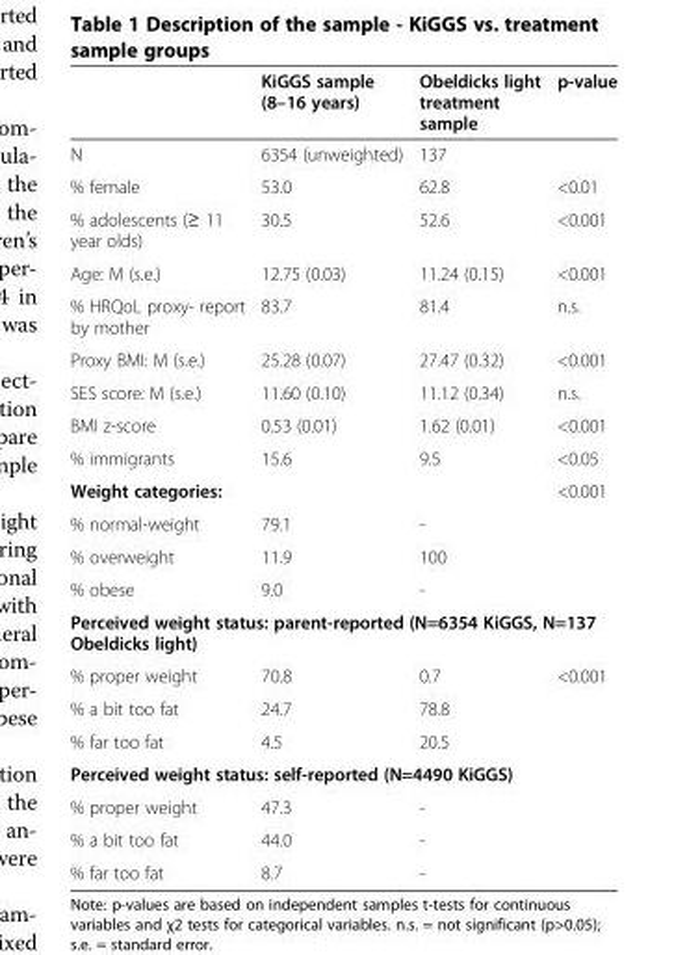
<table><thead><tr><td></td><td>KiGGS sample (8–16 years)</td><td>Obeldicks light treatment sample</td><td>p-value</td></tr></thead><tbody><tr><td>N</td><td>6354 (unweighted)</td><td>137</td><td></td></tr><tr><td>% female</td><td>53.0</td><td>62.8</td><td>&lt;0.01</td></tr><tr><td>% adolescents (≥ 11 year olds)</td><td>30.5</td><td>52.6</td><td>&lt;0.001</td></tr><tr><td>Age: M (s.e.)</td><td>12.75 (0.03)</td><td>11.24 (0.15)</td><td>&lt;0.001</td></tr><tr><td>% HRQoL proxy- report by mother</td><td>83.7</td><td>81.4</td><td>n.s.</td></tr><tr><td>Proxy BMI: M (s.e.)</td><td>25.28 (0.07)</td><td>27.47 (0.32)</td><td>&lt;0.001</td></tr><tr><td>SES score: M (s.e.)</td><td>11.60 (0.10)</td><td>11.12 (0.34)</td><td>n.s.</td></tr><tr><td>BMI z-score</td><td>0.53 (0.01)</td><td>1.62 (0.01)</td><td>&lt;0.001</td></tr><tr><td>% immigrants</td><td>15.6</td><td>9.5</td><td>&lt;0.05</td></tr><tr><td colspan="3">Weight categories:</td><td>&lt;0.001</td></tr><tr><td>% normal-weight</td><td>79.1</td><td>-</td><td></td></tr><tr><td>% overweight</td><td>11.9</td><td>100</td><td></td></tr><tr><td>% obese</td><td>9.0</td><td>-</td><td></td></tr><tr><td colspan="4">Perceived weight status: parent-reported (N=6354 KiGGS, N=137 Obeldicks light)</td></tr><tr><td>% proper weight</td><td>70.8</td><td>0.7</td><td rowspan="3">&lt;0.001</td></tr><tr><td>% a bit too fat</td><td>24.7</td><td>78.8</td></tr><tr><td>% far too fat</td><td>4.5</td><td>20.5</td></tr><tr><td colspan="4">Perceived weight status: self-reported (N=4490 KiGGS)</td></tr><tr><td>% proper weight</td><td>47.3</td><td>-</td><td rowspan="2"></td></tr><tr><td>% a bit too fat</td><td>44.0</td><td>-</td></tr><tr><td>% far too fat</td><td>8.7</td><td>-</td><td></td></tr></tbody></table>